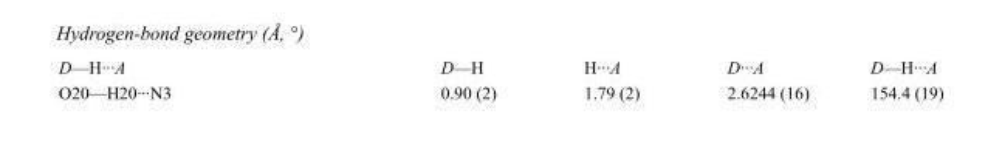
<table><tbody><tr><td>D—H···A</td><td>D—H</td><td>H···A</td><td>D···A</td><td>D—H···A</td></tr><tr><td>O20—H20···N3</td><td>0.90 (2)</td><td>1.79 (2)</td><td>2.6244 (16)</td><td>154.4 (19)</td></tr></tbody></table>